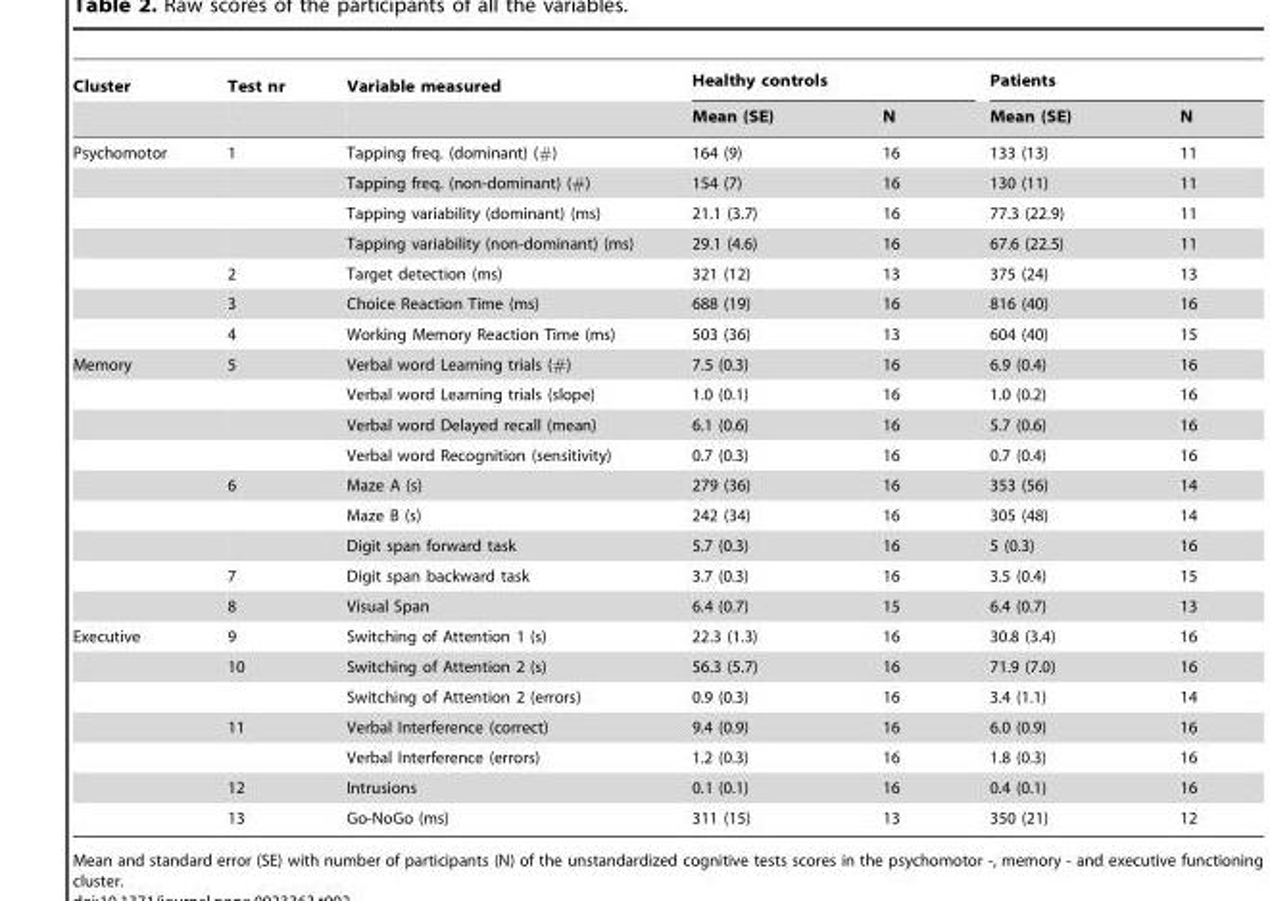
<table><thead><tr><td rowspan="2">Cluster</td><td rowspan="2">Test nr</td><td rowspan="2">Variable measured</td><td colspan="2">Healthy controls</td><td colspan="2">Patients</td></tr><tr><td>Mean (SE)</td><td>N</td><td>Mean (SE)</td><td>N</td></tr></thead><tbody><tr><td rowspan="7">Psychomotor</td><td>1</td><td>Tapping freq. (dominant) (#)</td><td>164 (9)</td><td>16</td><td>133 (13)</td><td>11</td></tr><tr><td></td><td>Tapping freq. (non-dominant) (#)</td><td>154 (7)</td><td>16</td><td>130 (11)</td><td>11</td></tr><tr><td></td><td>Tapping variability (dominant) (ms)</td><td>21.1 (3.7)</td><td>16</td><td>77.3 (22.9)</td><td>11</td></tr><tr><td></td><td>Tapping variability (non-dominant) (ms)</td><td>29.1 (4.6)</td><td>16</td><td>67.6 (22.5)</td><td>11</td></tr><tr><td>2</td><td>Target detection (ms)</td><td>321 (12)</td><td>13</td><td>375 (24)</td><td>13</td></tr><tr><td>3</td><td>Choice Reaction Time (ms)</td><td>688 (19)</td><td>16</td><td>816 (40)</td><td>16</td></tr><tr><td>4</td><td>Working Memory Reaction Time (ms)</td><td>503 (36)</td><td>13</td><td>604 (40)</td><td>15</td></tr><tr><td rowspan="9">Memory</td><td>5</td><td>Verbal word Learning trials (#)</td><td>7.5 (0.3)</td><td>16</td><td>6.9 (0.4)</td><td>16</td></tr><tr><td></td><td>Verbal word Learning trials (slope)</td><td>1.0 (0.1)</td><td>16</td><td>1.0 (0.2)</td><td>16</td></tr><tr><td></td><td>Verbal word Delayed recall (mean)</td><td>6.1 (0.6)</td><td>16</td><td>5.7 (0.6)</td><td>16</td></tr><tr><td></td><td>Verbal word Recognition (sensitivity)</td><td>0.7 (0.3)</td><td>16</td><td>0.7 (0.4)</td><td>16</td></tr><tr><td>6</td><td>Maze A (s)</td><td>279 (36)</td><td>16</td><td>353 (56)</td><td>14</td></tr><tr><td></td><td>Maze B (s)</td><td>242 (34)</td><td>16</td><td>305 (48)</td><td>14</td></tr><tr><td></td><td>Digit span forward task</td><td>5.7 (0.3)</td><td>16</td><td>5 (0.3)</td><td>16</td></tr><tr><td>7</td><td>Digit span backward task</td><td>3.7 (0.3)</td><td>16</td><td>3.5 (0.4)</td><td>15</td></tr><tr><td>8</td><td>Visual Span</td><td>6.4 (0.7)</td><td>15</td><td>6.4 (0.7)</td><td>13</td></tr><tr><td rowspan="7">Executive</td><td>9</td><td>Switching of Attention 1 (s)</td><td>22.3 (1.3)</td><td>16</td><td>30.8 (3.4)</td><td>16</td></tr><tr><td>10</td><td>Switching of Attention 2 (s)</td><td>56.3 (5.7)</td><td>16</td><td>71.9 (7.0)</td><td>16</td></tr><tr><td></td><td>Switching of Attention 2 (errors)</td><td>0.9 (0.3)</td><td>16</td><td>3.4 (1.1)</td><td>14</td></tr><tr><td>11</td><td>Verbal Interference (correct)</td><td>9.4 (0.9)</td><td>16</td><td>6.0 (0.9)</td><td>16</td></tr><tr><td></td><td>Verbal Interference (errors)</td><td>1.2 (0.3)</td><td>16</td><td>1.8 (0.3)</td><td>16</td></tr><tr><td>12</td><td>Intrusions</td><td>0.1 (0.1)</td><td>16</td><td>0.4 (0.1)</td><td>16</td></tr><tr><td>13</td><td>Go-NoGo (ms)</td><td>311 (15)</td><td>13</td><td>350 (21)</td><td>12</td></tr></tbody></table>